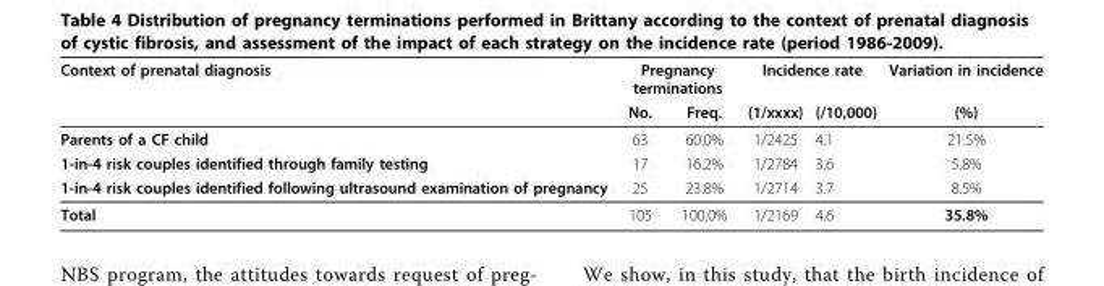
<table><thead><tr><td rowspan="2">Context of prenatal diagnosis</td><td colspan="2">Pregnancy terminations</td><td colspan="2">Incidence rate</td><td rowspan="2">Variation in incidence (%)</td></tr><tr><td>No.</td><td>Freq.</td><td>(1/xxxx)</td><td>(/10,000)</td></tr></thead><tbody><tr><td>Parents of a CF child</td><td>63</td><td>60.0%</td><td>1/2425</td><td>4.1</td><td>21.5%</td></tr><tr><td>1-in-4 risk couples identified through family testing</td><td>17</td><td>16.2%</td><td>1/2784</td><td>3.6</td><td>5.8%</td></tr><tr><td>1-in-4 risk couples identified following ultrasound examination of pregnancy</td><td>25</td><td>23.8%</td><td>1/2714</td><td>3.7</td><td>8.5%</td></tr><tr><td>Total</td><td>105</td><td>100.0%</td><td>1/2169</td><td>4.6</td><td>35.8%</td></tr></tbody></table>